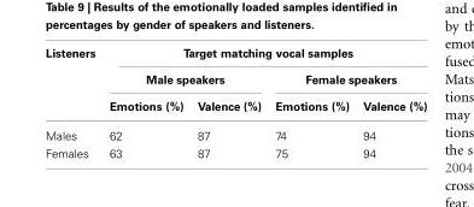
<table><thead><tr><td rowspan="3">Listeners</td><td colspan="4">Target matching vocal samples</td></tr><tr><td colspan="2">Male speakers</td><td colspan="2">Female speakers</td></tr><tr><td>Emotions (%)</td><td>Valence (%)</td><td>Emotions (%)</td><td>Valence (%)</td></tr></thead><tbody><tr><td>Males</td><td>62</td><td>87</td><td>74</td><td>94</td></tr><tr><td>Females</td><td>63</td><td>87</td><td>75</td><td>94</td></tr></tbody></table>